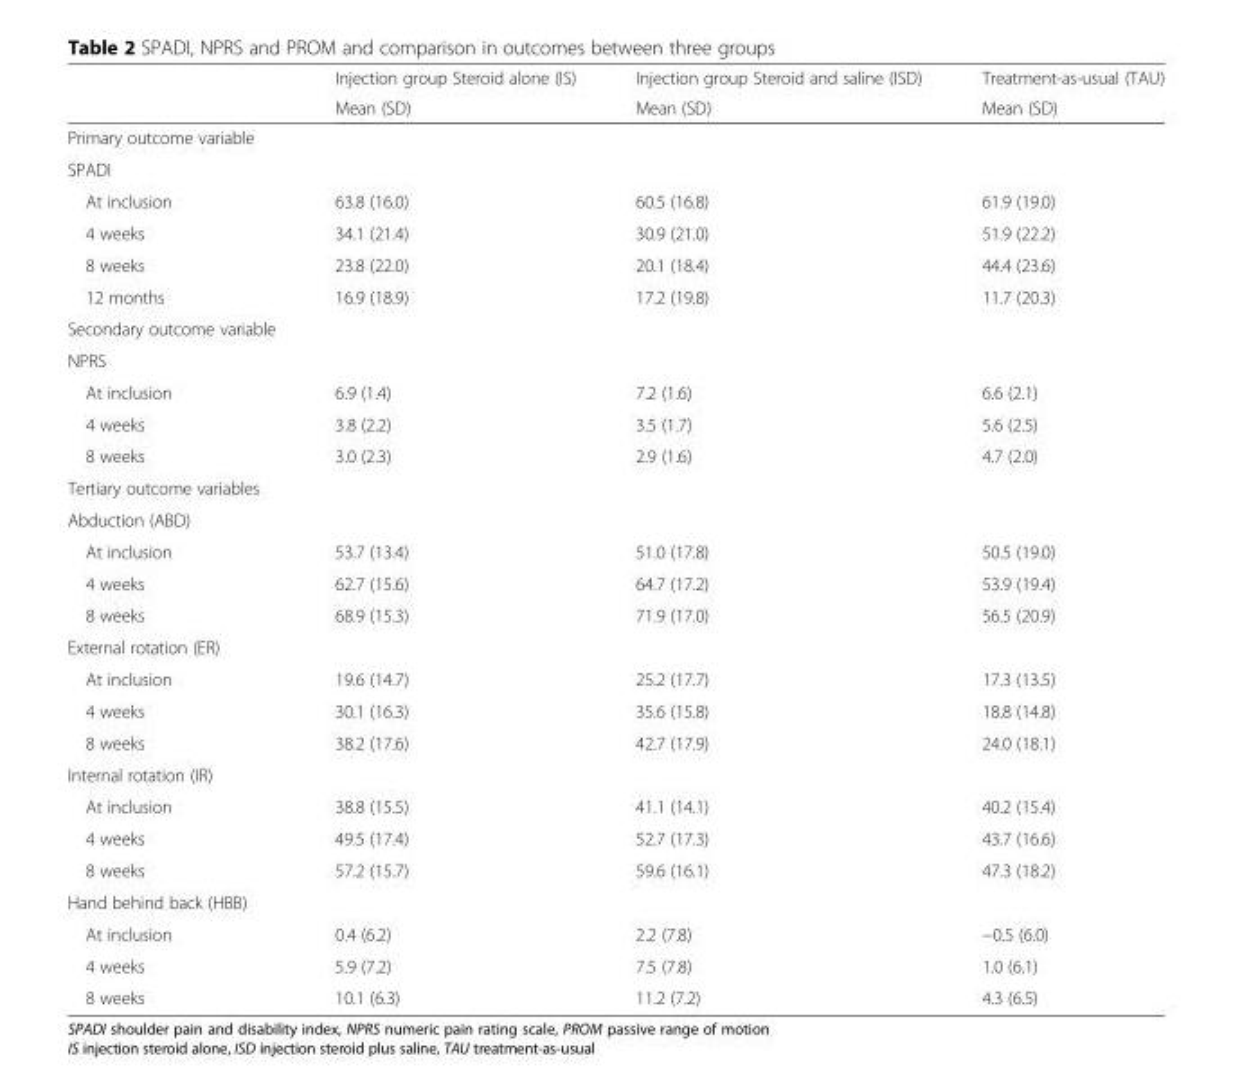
<table><thead><tr><td rowspan="2"></td><td rowspan="2">Injection group Steroid alone (IS) Mean (SD)</td><td rowspan="2">Injection group Steroid and saline (ISD) Mean (SD)</td><td rowspan="2">Treatment-as-usual (TAU) Mean (SD)</td></tr><tr></tr></thead><tbody><tr><td colspan="4">Primary outcome variable</td></tr><tr><td colspan="4">SPADI</td></tr><tr><td>At inclusion</td><td>63.8 (16.0)</td><td>60.5 (16.8)</td><td>61.9 (19.0)</td></tr><tr><td>4 weeks</td><td>34.1 (21.4)</td><td>30.9 (21.0)</td><td>51.9 (22.2)</td></tr><tr><td>8 weeks</td><td>23.8 (22.0)</td><td>20.1 (18.4)</td><td>44.4 (23.6)</td></tr><tr><td>12 months</td><td>16.9 (18.9)</td><td>17.2 (19.8)</td><td>11.7 (20.3)</td></tr><tr><td colspan="4">Secondary outcome variable</td></tr><tr><td colspan="4">NPRS</td></tr><tr><td>At inclusion</td><td>6.9 (1.4)</td><td>7.2 (1.6)</td><td>6.6 (2.1)</td></tr><tr><td>4 weeks</td><td>3.8 (2.2)</td><td>3.5 (1.7)</td><td>5.6 (2.5)</td></tr><tr><td>8 weeks</td><td>3.0 (2.3)</td><td>2.9 (1.6)</td><td>4.7 (2.0)</td></tr><tr><td colspan="4">Tertiary outcome variables</td></tr><tr><td colspan="4">Abduction (ABD)</td></tr><tr><td>At inclusion</td><td>53.7 (13.4)</td><td>51.0 (17.8)</td><td>50.5 (19.0)</td></tr><tr><td>4 weeks</td><td>62.7 (15.6)</td><td>64.7 (17.2)</td><td>53.9 (19.4)</td></tr><tr><td>8 weeks</td><td>68.9 (15.3)</td><td>71.9 (17.0)</td><td>56.5 (20.9)</td></tr><tr><td colspan="4">External rotation (ER)</td></tr><tr><td>At inclusion</td><td>19.6 (14.7)</td><td>25.2 (17.7)</td><td>17.3 (13.5)</td></tr><tr><td>4 weeks</td><td>30.1 (16.3)</td><td>35.6 (15.8)</td><td>18.8 (14.8)</td></tr><tr><td>8 weeks</td><td>38.2 (17.6)</td><td>42.7 (17.9)</td><td>24.0 (18.1)</td></tr><tr><td colspan="4">Internal rotation (IR)</td></tr><tr><td>At inclusion</td><td>38.8 (15.5)</td><td>41.1 (14.1)</td><td>40.2 (15.4)</td></tr><tr><td>4 weeks</td><td>49.5 (17.4)</td><td>52.7 (17.3)</td><td>43.7 (16.6)</td></tr><tr><td>8 weeks</td><td>57.2 (15.7)</td><td>59.6 (16.1)</td><td>47.3 (18.2)</td></tr><tr><td colspan="4">Hand behind back (HBB)</td></tr><tr><td>At inclusion</td><td>0.4 (6.2)</td><td>2.2 (7.8)</td><td>−0.5 (6.0)</td></tr><tr><td>4 weeks</td><td>5.9 (7.2)</td><td>7.5 (7.8)</td><td>1.0 (6.1)</td></tr><tr><td>8 weeks</td><td>10.1 (6.3)</td><td>11.2 (7.2)</td><td>4.3 (6.5)</td></tr></tbody></table>